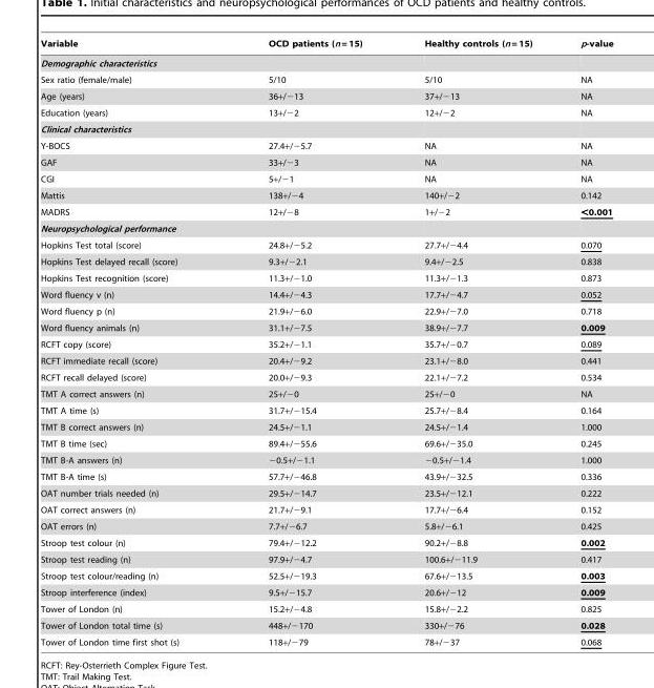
<table><thead><tr><td>Variable</td><td>OCD patients (n = 15)</td><td>Healthy controls (n = 15)</td><td>p-value</td></tr></thead><tbody><tr><td colspan="4">Demographic characteristics</td></tr><tr><td>Sex ratio (female/male)</td><td>5/10</td><td>5/10</td><td>NA</td></tr><tr><td>Age (years)</td><td>36+/−13</td><td>37+/−13</td><td>NA</td></tr><tr><td>Education (years)</td><td>13+/−2</td><td>12+/−2</td><td>NA</td></tr><tr><td colspan="4">Clinical characteristics</td></tr><tr><td>Y-BOCS</td><td>27.4+/−5.7</td><td>NA</td><td>NA</td></tr><tr><td>GAF</td><td>33+/−3</td><td>NA</td><td>NA</td></tr><tr><td>CGI</td><td>5+/−1</td><td>NA</td><td>NA</td></tr><tr><td>Mattis</td><td>138+/−4</td><td>140+/−2</td><td>0.142</td></tr><tr><td>MADRS</td><td>12+/−8</td><td>1+/−2</td><td>&lt;0.001</td></tr><tr><td colspan="4">Neuropsychological performance</td></tr><tr><td>Hopkins Test total (score)</td><td>24.8+/−5.2</td><td>27.7+/−4.4</td><td>0.070</td></tr><tr><td>Hopkins Test delayed recall (score)</td><td>9.3+/−2.1</td><td>9.4+/−2.5</td><td>0.838</td></tr><tr><td>Hopkins Test recognition (score)</td><td>11.3+/−1.0</td><td>11.3+/−1.3</td><td>0.873</td></tr><tr><td>Word fluency v (n)</td><td>14.4+/−4.3</td><td>17.7+/−4.7</td><td>0.052</td></tr><tr><td>Word fluency p (n)</td><td>21.9+/−6.0</td><td>22.9+/−7.0</td><td>0.718</td></tr><tr><td>Word fluency animals (n)</td><td>31.1+/−7.5</td><td>38.9+/−7.7</td><td>0.009</td></tr><tr><td>RCFT copy (score)</td><td>35.2+/−1.1</td><td>35.7+/−0.7</td><td>0.089</td></tr><tr><td>RCFT immediate recall (score)</td><td>20.4+/−9.2</td><td>23.1+/−8.0</td><td>0.441</td></tr><tr><td>RCFT recall delayed (score)</td><td>20.0+/−9.3</td><td>22.1+/−7.2</td><td>0.534</td></tr><tr><td>TMT A correct answers (n)</td><td>25+/−0</td><td>25+/−0</td><td>NA</td></tr><tr><td>TMT A time (s)</td><td>31.7+/−15.4</td><td>25.7+/−8.4</td><td>0.164</td></tr><tr><td>TMT B correct answers (n)</td><td>24.5+/−1.1</td><td>24.5+/−1.4</td><td>1.000</td></tr><tr><td>TMT B time (sec)</td><td>89.4+/−55.6</td><td>69.6+/−35.0</td><td>0.245</td></tr><tr><td>TMT B-A answers (n)</td><td>−0.5+/−1.1</td><td>−0.5+/−1.4</td><td>1.000</td></tr><tr><td>TMT B-A time (s)</td><td>57.7+/−46.8</td><td>43.9+/−32.5</td><td>0.336</td></tr><tr><td>OAT number trials needed (n)</td><td>29.5+/−14.7</td><td>23.5+/−12.1</td><td>0.222</td></tr><tr><td>OAT correct answers (n)</td><td>21.7+/−9.1</td><td>17.7+/−6.4</td><td>0.152</td></tr><tr><td>OAT errors (n)</td><td>7.7+/−6.7</td><td>5.8+/−6.1</td><td>0.425</td></tr><tr><td>Stroop test colour (n)</td><td>79.4+/−12.2</td><td>90.2+/−8.8</td><td>0.002</td></tr><tr><td>Stroop test reading (n)</td><td>97.9+/−4.7</td><td>100.6+/−11.9</td><td>0.417</td></tr><tr><td>Stroop test colour/reading (n)</td><td>52.5+/−19.3</td><td>67.6+/−13.5</td><td>0.003</td></tr><tr><td>Stroop interference (index)</td><td>9.5+/−15.7</td><td>20.6+/−12</td><td>0.009</td></tr><tr><td>Tower of London (n)</td><td>15.2+/−4.8</td><td>15.8+/−2.2</td><td>0.825</td></tr><tr><td>Tower of London total time (s)</td><td>448+/−170</td><td>330+/−76</td><td>0.028</td></tr><tr><td>Tower of London time first shot (s)</td><td>118+/−79</td><td>78+/−37</td><td>0.068</td></tr></tbody></table>